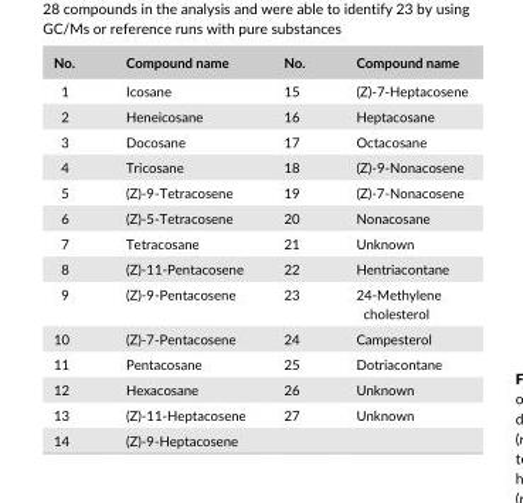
<table><thead><tr><td>No.</td><td>Compound name</td><td>No.</td><td>Compound name</td></tr></thead><tbody><tr><td>1</td><td>Icosane</td><td>15</td><td>(Z)- 7- Heptacosene</td></tr><tr><td>2</td><td>Heneicosane</td><td>16</td><td>Heptacosane</td></tr><tr><td>3</td><td>Docosane</td><td>17</td><td>Octacosane</td></tr><tr><td>4</td><td>Tricosane</td><td>18</td><td>(Z)- 9- Nonacosene</td></tr><tr><td>5</td><td>(Z)- 9- Tetracosene</td><td>19</td><td>(Z)- 7- Nonacosene</td></tr><tr><td>6</td><td>(Z)- 5- Tetracosene</td><td>20</td><td>Nonacosane</td></tr><tr><td>7</td><td>Tetracosane</td><td>21</td><td>Unknown</td></tr><tr><td>8</td><td>(Z)- 11- Pentacosene</td><td>22</td><td>Hentriacontane</td></tr><tr><td>9</td><td>(Z)- 9- Pentacosene</td><td>23</td><td>24- Methylene cholesterol</td></tr><tr><td>10</td><td>(Z)- 7- Pentacosene</td><td>24</td><td>Campesterol</td></tr><tr><td>11</td><td>Pentacosane</td><td>25</td><td>Dotriacontane</td></tr><tr><td>12</td><td>Hexacosane</td><td>26</td><td>Unknown</td></tr><tr><td>13</td><td>(Z)- 11- Heptacosene</td><td>27</td><td>Unknown</td></tr><tr><td>14</td><td>(Z)- 9- Heptacosene</td><td></td><td></td></tr></tbody></table>